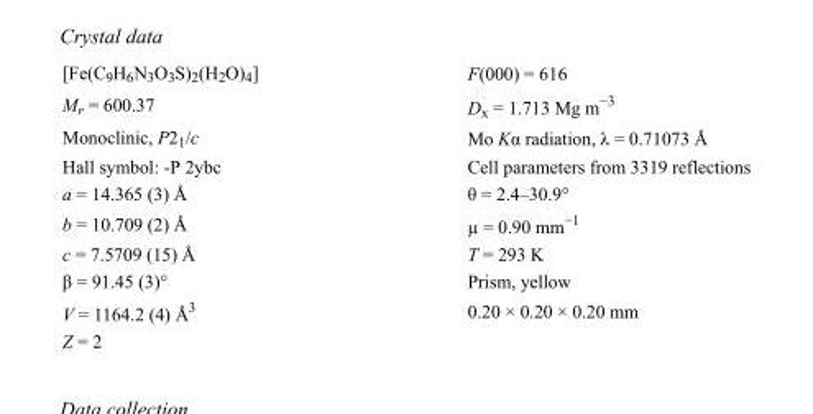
<table><tbody><tr><td>[Fe(C<sub>9</sub>H<sub>6</sub>N<sub>3</sub>O<sub>3</sub>S)<sub>2</sub>(H<sub>2</sub>O)<sub>4</sub>]</td><td>F(000) = 616</td></tr><tr><td>M<sub>r</sub> = 600.37</td><td>D<sub>x</sub> = 1.713 Mg m<sup>−3</sup></td></tr><tr><td>Monoclinic, P2<sub>1</sub>/c</td><td>Mo Kα radiation, λ = 0.71073 Å</td></tr><tr><td>Hall symbol: -P 2ybc</td><td>Cell parameters from 3319 reflections</td></tr><tr><td>a = 14.365 (3) Å</td><td>θ = 2.4–30.9°</td></tr><tr><td>b = 10.709 (2) Å</td><td>µ = 0.90 mm<sup>−1</sup></td></tr><tr><td>c = 7.5709 (15) Å</td><td>T = 293 K</td></tr><tr><td>β = 91.45 (3)°</td><td>Prism, yellow</td></tr><tr><td>V = 1164.2 (4) Å<sup>3</sup></td><td>0.20 × 0.20 × 0.20 mm</td></tr><tr><td>Z = 2</td><td></td></tr></tbody></table>